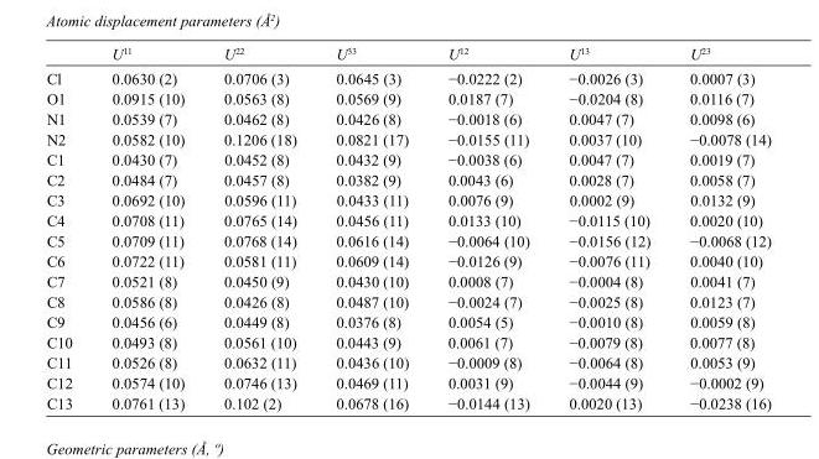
<table><thead><tr><td></td><td>U<sup>11</sup></td><td>U<sup>22</sup></td><td>U<sup>33</sup></td><td>U<sup>12</sup></td><td>U<sup>13</sup></td><td>U<sup>23</sup></td></tr></thead><tbody><tr><td>Cl</td><td>0.0630 (2)</td><td>0.0706 (3)</td><td>0.0645 (3)</td><td>−0.0222 (2)</td><td>−0.0026 (3)</td><td>0.0007 (3)</td></tr><tr><td>O1</td><td>0.0915 (10)</td><td>0.0563 (8)</td><td>0.0569 (9)</td><td>0.0187 (7)</td><td>−0.0204 (8)</td><td>0.0116 (7)</td></tr><tr><td>N1</td><td>0.0539 (7)</td><td>0.0462 (8)</td><td>0.0426 (8)</td><td>−0.0018 (6)</td><td>0.0047 (7)</td><td>0.0098 (6)</td></tr><tr><td>N2</td><td>0.0582 (10)</td><td>0.1206 (18)</td><td>0.0821 (17)</td><td>−0.0155 (11)</td><td>0.0037 (10)</td><td>−0.0078 (14)</td></tr><tr><td>C1</td><td>0.0430 (7)</td><td>0.0452 (8)</td><td>0.0432 (9)</td><td>−0.0038 (6)</td><td>0.0047 (7)</td><td>0.0019 (7)</td></tr><tr><td>C2</td><td>0.0484 (7)</td><td>0.0457 (8)</td><td>0.0382 (9)</td><td>0.0043 (6)</td><td>0.0028 (7)</td><td>0.0058 (7)</td></tr><tr><td>C3</td><td>0.0692 (10)</td><td>0.0596 (11)</td><td>0.0433 (11)</td><td>0.0076 (9)</td><td>0.0002 (9)</td><td>0.0132 (9)</td></tr><tr><td>C4</td><td>0.0708 (11)</td><td>0.0765 (14)</td><td>0.0456 (11)</td><td>0.0133 (10)</td><td>−0.0115 (10)</td><td>0.0020 (10)</td></tr><tr><td>C5</td><td>0.0709 (11)</td><td>0.0768 (14)</td><td>0.0616 (14)</td><td>−0.0064 (10)</td><td>−0.0156 (12)</td><td>−0.0068 (12)</td></tr><tr><td>C6</td><td>0.0722 (11)</td><td>0.0581 (11)</td><td>0.0609 (14)</td><td>−0.0126 (9)</td><td>−0.0076 (11)</td><td>0.0040 (10)</td></tr><tr><td>C7</td><td>0.0521 (8)</td><td>0.0450 (9)</td><td>0.0430 (10)</td><td>0.0008 (7)</td><td>−0.0004 (8)</td><td>0.0041 (7)</td></tr><tr><td>C8</td><td>0.0586 (8)</td><td>0.0426 (8)</td><td>0.0487 (10)</td><td>−0.0024 (7)</td><td>−0.0025 (8)</td><td>0.0123 (7)</td></tr><tr><td>C9</td><td>0.0456 (6)</td><td>0.0449 (8)</td><td>0.0376 (8)</td><td>0.0054 (5)</td><td>−0.0010 (8)</td><td>0.0059 (8)</td></tr><tr><td>C10</td><td>0.0493 (8)</td><td>0.0561 (10)</td><td>0.0443 (9)</td><td>0.0061 (7)</td><td>−0.0079 (8)</td><td>0.0077 (8)</td></tr><tr><td>C11</td><td>0.0526 (8)</td><td>0.0632 (11)</td><td>0.0436 (10)</td><td>−0.0009 (8)</td><td>−0.0064 (8)</td><td>0.0053 (9)</td></tr><tr><td>C12</td><td>0.0574 (10)</td><td>0.0746 (13)</td><td>0.0469 (11)</td><td>0.0031 (9)</td><td>−0.0044 (9)</td><td>−0.0002 (9)</td></tr><tr><td>C13</td><td>0.0761 (13)</td><td>0.102 (2)</td><td>0.0678 (16)</td><td>−0.0144 (13)</td><td>0.0020 (13)</td><td>−0.0238 (16)</td></tr></tbody></table>